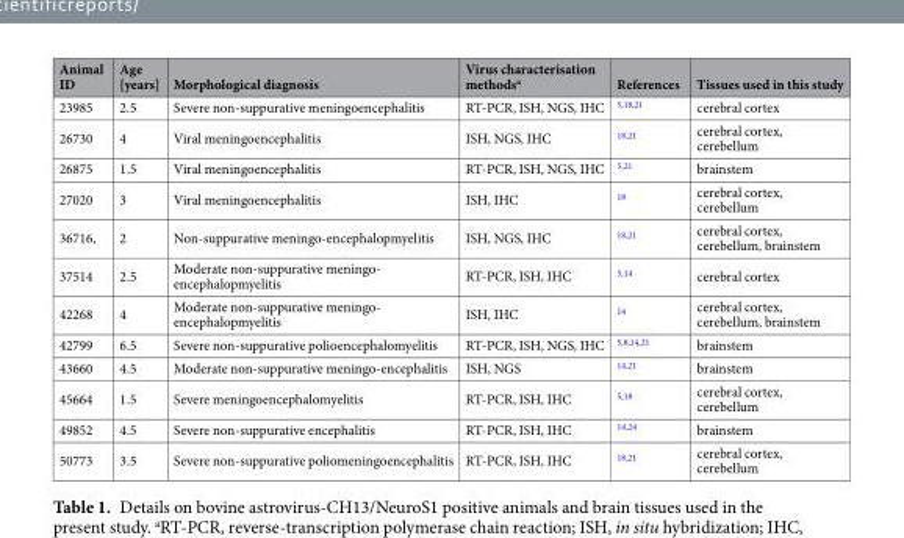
<table><thead><tr><td>Animal ID</td><td>Age [years]</td><td>Morphological diagnosis</td><td>Virus characterisation methods<sup>a</sup></td><td>References</td><td>Tissues used in this study</td></tr></thead><tbody><tr><td>23985</td><td>2.5</td><td>Severe non-suppurative meningoencephalitis</td><td>RT-PCR, ISH, NGS, IHC</td><td><sup>5,18,21</sup></td><td>cerebral cortex</td></tr><tr><td>26730</td><td>4</td><td>Viral meningoencephalitis</td><td>ISH, NGS, IHC</td><td><sup>18,21</sup></td><td>cerebral cortex, cerebellum</td></tr><tr><td>26875</td><td>1.5</td><td>Viral meningoencephalitis</td><td>RT-PCR, ISH, NGS, IHC</td><td><sup>5,21</sup></td><td>brainstem</td></tr><tr><td>27020</td><td>3</td><td>Viral meningoencephalitis</td><td>ISH, IHC</td><td><sup>18</sup></td><td>cerebral cortex, cerebellum</td></tr><tr><td>36716,</td><td>2</td><td>Non-suppurative meningo-encephalopmyelitis</td><td>ISH, NGS, IHC</td><td><sup>18,21</sup></td><td>cerebral cortex, cerebellum, brainstem</td></tr><tr><td>37514</td><td>2.5</td><td>Moderate non-suppurative meningo- encephalopmyelitis</td><td>RT-PCR, ISH, IHC</td><td><sup>5,14</sup></td><td>cerebral cortex</td></tr><tr><td>42268</td><td>4</td><td>Moderate non-suppurative meningo- encephalopmyelitis</td><td>ISH, IHC</td><td><sup>14</sup></td><td>cerebral cortex, cerebellum, brainstem</td></tr><tr><td>42799</td><td>6.5</td><td>Severe non-suppurative polioencephalomyelitis</td><td>RT-PCR, ISH, NGS, IHC</td><td><sup>5,8,14,21</sup></td><td>brainstem</td></tr><tr><td>43660</td><td>4.5</td><td>Moderate non-suppurative meningo-encephalitis</td><td>ISH, NGS</td><td><sup>14,21</sup></td><td>brainstem</td></tr><tr><td>45664</td><td>1.5</td><td>Severe meningoencephalomyelitis</td><td>RT-PCR, ISH, IHC</td><td><sup>5,18</sup></td><td>cerebral cortex, cerebellum</td></tr><tr><td>49852</td><td>4.5</td><td>Severe non-suppurative encephalitis</td><td>RT-PCR, ISH, IHC</td><td><sup>14,24</sup></td><td>brainstem</td></tr><tr><td>50773</td><td>3.5</td><td>Severe non-suppurative poliomeningoencephalitis</td><td>RT-PCR, ISH, IHC</td><td><sup>18,21</sup></td><td>cerebral cortex, cerebellum</td></tr></tbody></table>